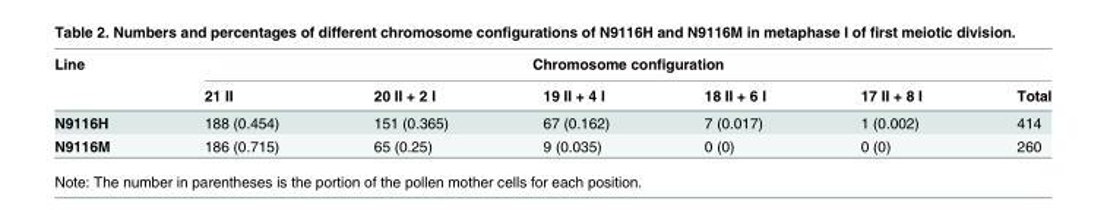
<table><thead><tr><td rowspan="2">Line</td><td colspan="6">Chromosome configuration</td></tr><tr><td>21 II</td><td>20 II + 2 I</td><td>19 II + 4 I</td><td>18 II + 6 I</td><td>17 II + 8 I</td><td>Total</td></tr></thead><tbody><tr><td>N9116H</td><td>188 (0.454)</td><td>151 (0.365)</td><td>67 (0.162)</td><td>7 (0.017)</td><td>1 (0.002)</td><td>414</td></tr><tr><td>N9116M</td><td>186 (0.715)</td><td>65 (0.25)</td><td>9 (0.035)</td><td>0 (0)</td><td>0 (0)</td><td>260</td></tr></tbody></table>